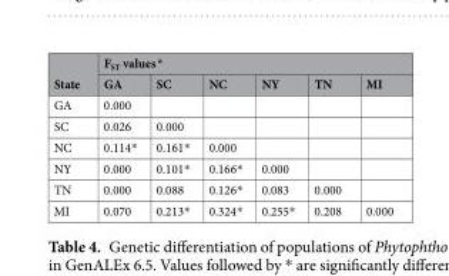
<table><thead><tr><td rowspan="2">State</td><td colspan="6">F<sub>ST</sub> values <sup>a</sup></td></tr><tr><td>GA</td><td>SC</td><td>NC</td><td>NY</td><td>TN</td><td>MI</td></tr></thead><tbody><tr><td>GA</td><td>0.000</td><td></td><td></td><td></td><td></td><td></td></tr><tr><td>SC</td><td>0.026</td><td>0.000</td><td></td><td></td><td></td><td></td></tr><tr><td>NC</td><td>0.114*</td><td>0.161*</td><td>0.000</td><td></td><td></td><td></td></tr><tr><td>NY</td><td>0.000</td><td>0.101*</td><td>0.166*</td><td>0.000</td><td></td><td></td></tr><tr><td>TN</td><td>0.000</td><td>0.088</td><td>0.126*</td><td>0.083</td><td>0.000</td><td></td></tr><tr><td>MI</td><td>0.070</td><td>0.213*</td><td>0.324*</td><td>0.255*</td><td>0.208</td><td>0.000</td></tr></tbody></table>